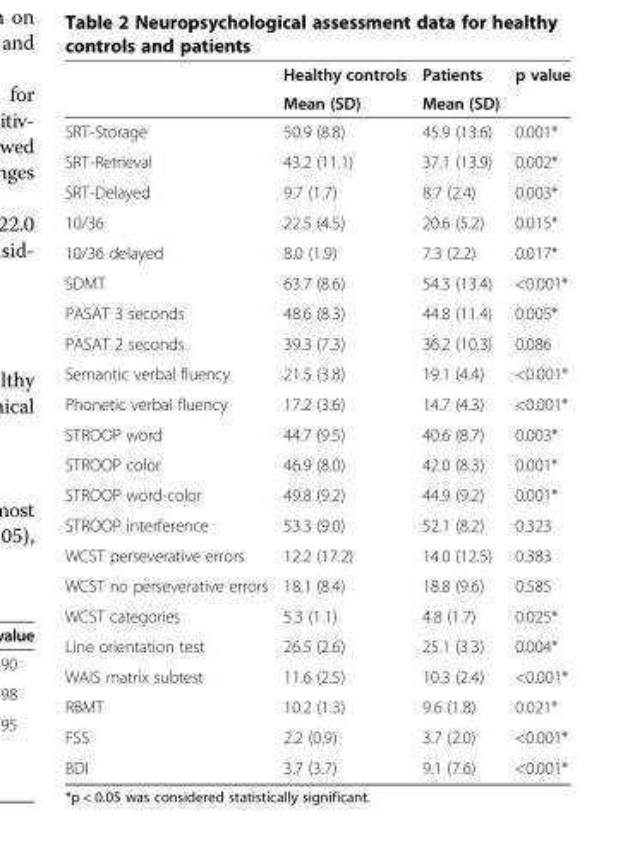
<table><thead><tr><td rowspan="2"></td><td rowspan="2">Healthy controls Mean (SD)</td><td rowspan="2">Patients Mean (SD)</td><td rowspan="2">p value</td></tr><tr></tr></thead><tbody><tr><td>SRT-Storage</td><td>50.9 (8.8)</td><td>45.9 (13.6)</td><td>0.001*</td></tr><tr><td>SRT-Retrieval</td><td>43.2 (11.1)</td><td>37.1 (13.9)</td><td>0.002*</td></tr><tr><td>SRT-Delayed</td><td>9.7 (1.7)</td><td>8.7 (2.4)</td><td>0.003*</td></tr><tr><td>10/36</td><td>22.5 (4.5)</td><td>20.6 (5.2)</td><td>0.015*</td></tr><tr><td>10/36 delayed</td><td>8.0 (1.9)</td><td>7.3 (2.2)</td><td>0.017*</td></tr><tr><td>SDMT</td><td>63.7 (8.6)</td><td>54.3 (13.4)</td><td>&lt;0.001*</td></tr><tr><td>PASAT 3 seconds</td><td>48.6 (8.3)</td><td>44.8 (11.4)</td><td>0.005*</td></tr><tr><td>PASAT 2 seconds</td><td>39.3 (7.3)</td><td>36.2 (10.3)</td><td>0.086</td></tr><tr><td>Semantic verbal fluency</td><td>21.5 (3.8)</td><td>19.1 (4.4)</td><td>&lt;0.001*</td></tr><tr><td>Phonetic verbal fluency</td><td>17.2 (3.6)</td><td>14.7 (4.3)</td><td>&lt;0.001*</td></tr><tr><td>STROOP word</td><td>44.7 (9.5)</td><td>40.6 (8.7)</td><td>0.003*</td></tr><tr><td>STROOP color</td><td>46.9 (8.0)</td><td>42.0 (8.3)</td><td>0.001*</td></tr><tr><td>STROOP word-color</td><td>49.8 (9.2)</td><td>44.9 (9.2)</td><td>0.001*</td></tr><tr><td>STROOP interference</td><td>53.3 (9.0)</td><td>52.1 (8.2)</td><td>0.323</td></tr><tr><td>WCST perseverative errors</td><td>12.2 (17.2)</td><td>14.0 (12.5)</td><td>0.383</td></tr><tr><td>WCST no perseverative errors</td><td>18.1 (8.4)</td><td>18.8 (9.6)</td><td>0.585</td></tr><tr><td>WCST categories</td><td>5.3 (1.1)</td><td>4.8 (1.7)</td><td>0.025*</td></tr><tr><td>Line orientation test</td><td>26.5 (2.6)</td><td>25.1 (3.3)</td><td>0.004*</td></tr><tr><td>WAIS matrix subtest</td><td>11.6 (2.5)</td><td>10.3 (2.4)</td><td>&lt;0.001*</td></tr><tr><td>RBMT</td><td>10.2 (1.3)</td><td>9.6 (1.8)</td><td>0.021*</td></tr><tr><td>FSS</td><td>2.2 (0.9)</td><td>3.7 (2.0)</td><td>&lt;0.001*</td></tr><tr><td>BDI</td><td>3.7 (3.7)</td><td>9.1 (7.6)</td><td>&lt;0.001*</td></tr></tbody></table>